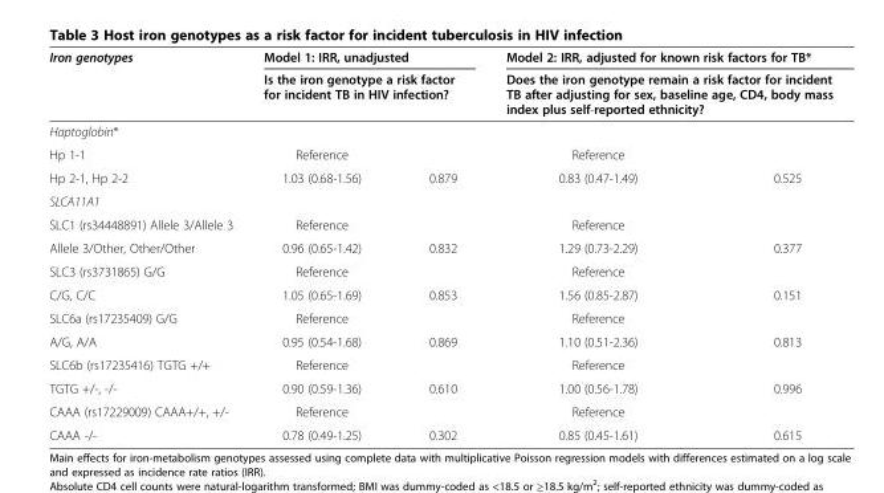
<table><thead><tr><td rowspan="2">Iron genotypes</td><td rowspan="2" colspan="2">Model 1: IRR, unadjusted Is the iron genotype a risk factor for incident TB in HIV infection?</td><td rowspan="2" colspan="2">Model 2: IRR, adjusted for known risk factors for TB* Does the iron genotype remain a risk factor for incident TB after adjusting for sex, baseline age, CD4, body mass index plus self-reported ethnicity?</td></tr><tr></tr><tr><td colspan="5">Haptoglobin*</td></tr><tr><td>Hp 1-1</td><td>Reference</td><td></td><td>Reference</td><td></td></tr></thead><tbody><tr><td>Hp 2-1, Hp 2-2</td><td>1.03 (0.68-1.56)</td><td>0.879</td><td>0.83 (0.47-1.49)</td><td>0.525</td></tr><tr><td colspan="5">SLCA11A1</td></tr><tr><td>SLC1 (rs34448891) Allele 3/Allele 3</td><td>Reference</td><td></td><td>Reference</td><td></td></tr><tr><td>Allele 3/Other, Other/Other</td><td>0.96 (0.65-1.42)</td><td>0.832</td><td>1.29 (0.73-2.29)</td><td>0.377</td></tr><tr><td>SLC3 (rs3731865) G/G</td><td>Reference</td><td></td><td>Reference</td><td></td></tr><tr><td>C/G, C/C</td><td>1.05 (0.65-1.69)</td><td>0.853</td><td>1.56 (0.85-2.87)</td><td>0.151</td></tr><tr><td>SLC6a (rs17235409) G/G</td><td>Reference</td><td></td><td>Reference</td><td></td></tr><tr><td>A/G, A/A</td><td>0.95 (0.54-1.68)</td><td>0.869</td><td>1.10 (0.51-2.36)</td><td>0.813</td></tr><tr><td>SLC6b (rs17235416) TGTG +/+</td><td>Reference</td><td></td><td>Reference</td><td></td></tr><tr><td>TGTG +/-, -/-</td><td>0.90 (0.59-1.36)</td><td>0.610</td><td>1.00 (0.56-1.78)</td><td>0.996</td></tr><tr><td>CAAA (rs17229009) CAAA+/+, +/-</td><td>Reference</td><td></td><td>Reference</td><td></td></tr><tr><td>CAAA -/-</td><td>0.78 (0.49-1.25)</td><td>0.302</td><td>0.85 (0.45-1.61)</td><td>0.615</td></tr></tbody></table>